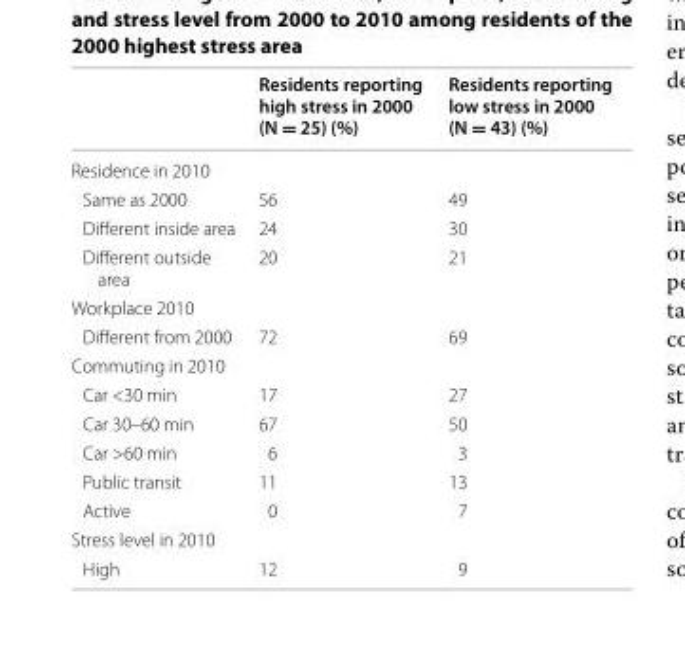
<table><thead><tr><td></td><td>Residents reporting high stress in 2000 (N = 25) (%)</td><td>Residents reporting low stress in 2000 (N = 43) (%)</td></tr></thead><tbody><tr><td colspan="3">Residence in 2010</td></tr><tr><td>Same as 2000</td><td>56</td><td>49</td></tr><tr><td>Different inside area</td><td>24</td><td>30</td></tr><tr><td>Different outside area</td><td>20</td><td>21</td></tr><tr><td colspan="3">Workplace 2010</td></tr><tr><td>Different from 2000</td><td>72</td><td>69</td></tr><tr><td colspan="3">Commuting in 2010</td></tr><tr><td>Car &lt;30 min</td><td>17</td><td>27</td></tr><tr><td>Car 30–60 min</td><td>67</td><td>50</td></tr><tr><td>Car &gt;60 min</td><td>6</td><td>3</td></tr><tr><td>Public transit</td><td>11</td><td>13</td></tr><tr><td>Active</td><td>0</td><td>7</td></tr><tr><td colspan="3">Stress level in 2010</td></tr><tr><td>High</td><td>12</td><td>9</td></tr></tbody></table>